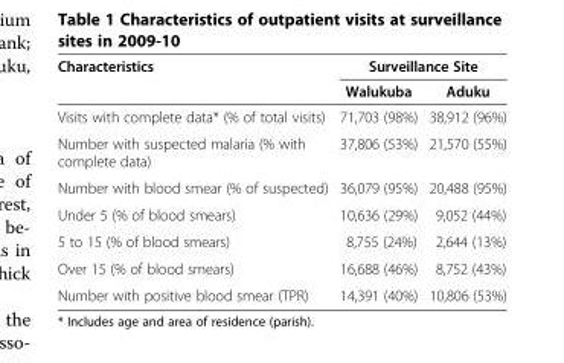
<table><thead><tr><td rowspan="2">Characteristics</td><td colspan="2">Surveillance Site</td></tr><tr><td>Walukuba</td><td>Aduku</td></tr></thead><tbody><tr><td>Visits with complete data* (% of total visits)</td><td>71,703 (98%)</td><td>38,912 (96%)</td></tr><tr><td>Number with suspected malaria (% with complete data)</td><td>37,806 (53%)</td><td>21,570 (55%)</td></tr><tr><td>Number with blood smear (% of suspected)</td><td>36,079 (95%)</td><td>20,488 (95%)</td></tr><tr><td>Under 5 (% of blood smears)</td><td>10,636 (29%)</td><td>9,052 (44%)</td></tr><tr><td>5 to 15 (% of blood smears)</td><td>8,755 (24%)</td><td>2,644 (13%)</td></tr><tr><td>Over 15 (% of blood smears)</td><td>16,688 (46%)</td><td>8,752 (43%)</td></tr><tr><td>Number with positive blood smear (TPR)</td><td>14,391 (40%)</td><td>10,806 (53%)</td></tr></tbody></table>